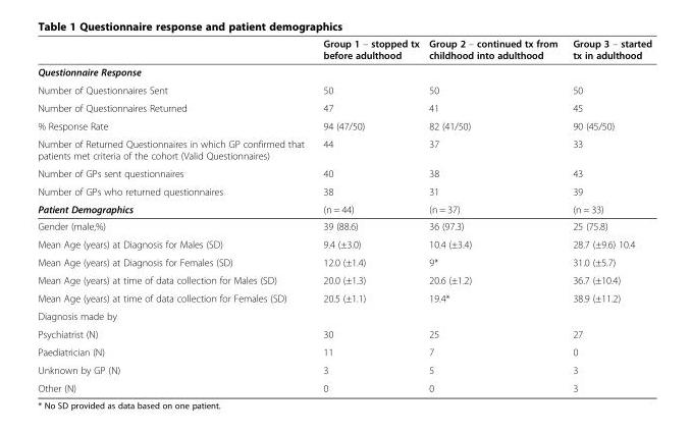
<table><thead><tr><td></td><td>Group 1 – stopped tx before adulthood</td><td>Group 2 – continued tx from childhood into adulthood</td><td>Group 3 – started tx in adulthood</td></tr></thead><tbody><tr><td colspan="4">Questionnaire Response</td></tr><tr><td>Number of Questionnaires Sent</td><td>50</td><td>50</td><td>50</td></tr><tr><td>Number of Questionnaires Returned</td><td>47</td><td>41</td><td>45</td></tr><tr><td>% Response Rate</td><td>94 (47/50)</td><td>82 (41/50)</td><td>90 (45/50)</td></tr><tr><td>Number of Returned Questionnaires in which GP confirmed that patients met criteria of the cohort (Valid Questionnaires)</td><td>44</td><td>37</td><td>33</td></tr><tr><td>Number of GPs sent questionnaires</td><td>40</td><td>38</td><td>43</td></tr><tr><td>Number of GPs who returned questionnaires</td><td>38</td><td>31</td><td>39</td></tr><tr><td>Patient Demographics</td><td>(n = 44)</td><td>(n = 37)</td><td>(n = 33)</td></tr><tr><td>Gender (male,%)</td><td>39 (88.6)</td><td>36 (97.3)</td><td>25 (75.8)</td></tr><tr><td>Mean Age (years) at Diagnosis for Males (SD)</td><td>9.4 (±3.0)</td><td>10.4 (±3.4)</td><td>28.7 (±9.6) 10.4</td></tr><tr><td>Mean Age (years) at Diagnosis for Females (SD)</td><td>12.0 (±1.4)</td><td>9*</td><td>31.0 (±5.7)</td></tr><tr><td>Mean Age (years) at time of data collection for Males (SD)</td><td>20.0 (±1.3)</td><td>20.6 (±1.2)</td><td>36.7 (±10.4)</td></tr><tr><td>Mean Age (years) at time of data collection for Females (SD)</td><td>20.5 (±1.1)</td><td>19.4*</td><td>38.9 (±11.2)</td></tr><tr><td colspan="4">Diagnosis made by</td></tr><tr><td>Psychiatrist (N)</td><td>30</td><td>25</td><td>27</td></tr><tr><td>Paediatrician (N)</td><td>11</td><td>7</td><td>0</td></tr><tr><td>Unknown by GP (N)</td><td>3</td><td>5</td><td>3</td></tr><tr><td>Other (N)</td><td>0</td><td>0</td><td>3</td></tr></tbody></table>